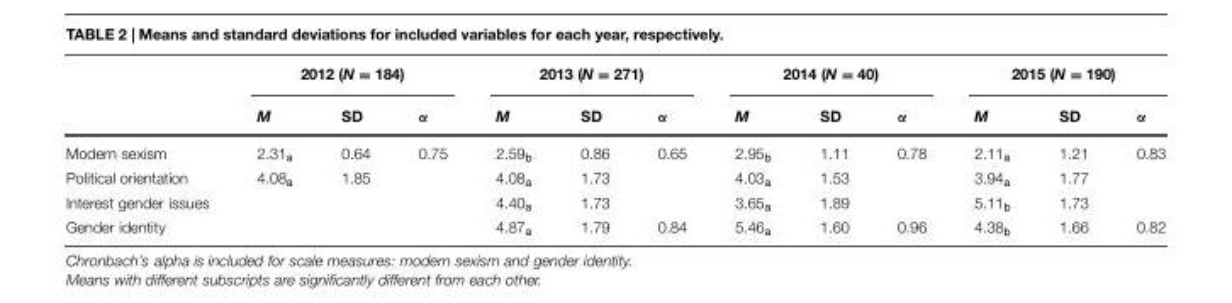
<table><thead><tr><td rowspan="2"></td><td colspan="3">2012 (N = 184)</td><td colspan="3">2013 (N = 271)</td><td colspan="3">2014 (N = 40)</td><td colspan="3">2015 (N = 190)</td></tr><tr><td>M</td><td>SD</td><td>α</td><td>M</td><td>SD</td><td>α</td><td>M</td><td>SD</td><td>α</td><td>M</td><td>SD</td><td>α</td></tr></thead><tbody><tr><td>Modern sexism</td><td>2.31<sub>a</sub></td><td>0.64</td><td>0.75</td><td>2.59<sub>b</sub></td><td>0.86</td><td>0.65</td><td>2.95<sub>b</sub></td><td>1.11</td><td>0.78</td><td>2.11<sub>a</sub></td><td>1.21</td><td>0.83</td></tr><tr><td>Political orientation</td><td>4.08<sub>a</sub></td><td>1.85</td><td></td><td>4.08<sub>a</sub></td><td>1.73</td><td></td><td>4.03<sub>a</sub></td><td>1.53</td><td></td><td>3.94<sub>a</sub></td><td>1.77</td><td></td></tr><tr><td>Interest gender issues</td><td></td><td></td><td></td><td>4.40<sub>a</sub></td><td>1.73</td><td></td><td>3.65<sub>a</sub></td><td>1.89</td><td></td><td>5.11<sub>b</sub></td><td>1.73</td><td></td></tr><tr><td>Gender identity</td><td></td><td></td><td></td><td>4.87<sub>a</sub></td><td>1.79</td><td>0.84</td><td>5.46<sub>a</sub></td><td>1.60</td><td>0.96</td><td>4.38<sub>b</sub></td><td>1.66</td><td>0.82</td></tr></tbody></table>